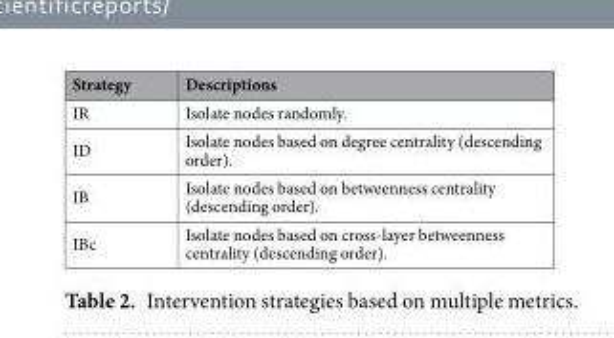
<table><thead><tr><td>Strategy</td><td>Descriptions</td></tr></thead><tbody><tr><td>IR</td><td>Isolate nodes randomly.</td></tr><tr><td>ID</td><td>Isolate nodes based on degree centrality (descending order).</td></tr><tr><td>IB</td><td>Isolate nodes based on betweenness centrality (descending order).</td></tr><tr><td>IBc</td><td>Isolate nodes based on cross-layer betweenness centrality (descending order).</td></tr></tbody></table>